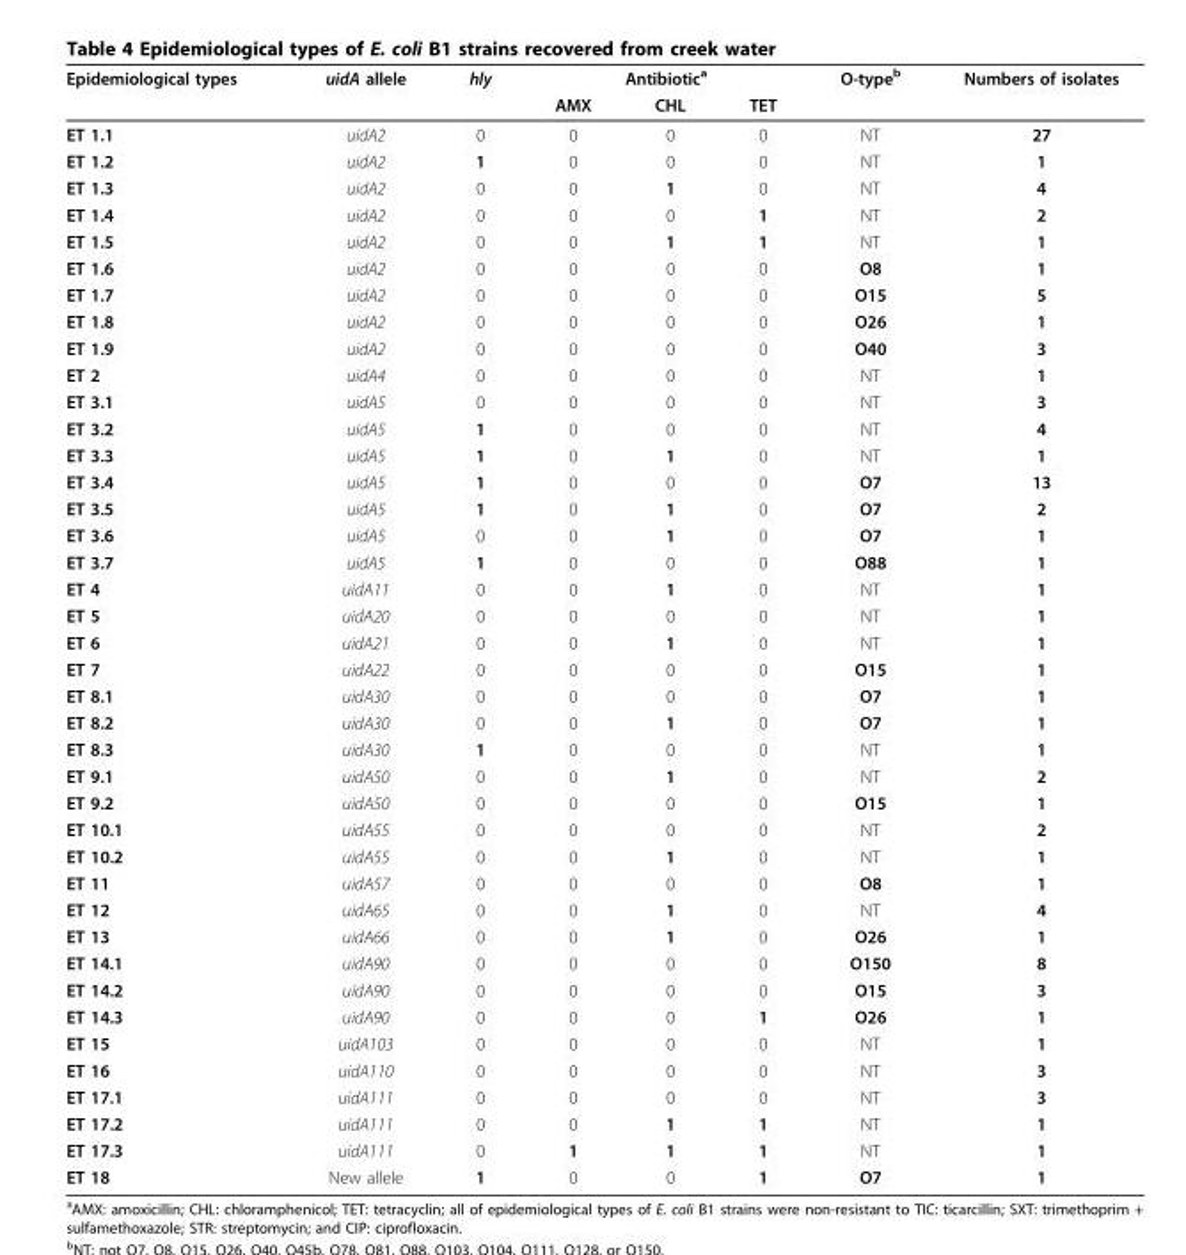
<table><thead><tr><td rowspan="2">Epidemiological types</td><td rowspan="2">uidA allele</td><td rowspan="2">hly</td><td colspan="3">Antibiotic<sup>a</sup></td><td rowspan="2">O-type<sup>b</sup></td><td rowspan="2">Numbers of isolates</td></tr><tr><td>AMX</td><td>CHL</td><td>TET</td></tr></thead><tbody><tr><td>ET 1.1</td><td>uidA2</td><td>0</td><td>0</td><td>0</td><td>0</td><td>NT</td><td>27</td></tr><tr><td>ET 1.2</td><td>uidA2</td><td>1</td><td>0</td><td>0</td><td>0</td><td>NT</td><td>1</td></tr><tr><td>ET 1.3</td><td>uidA2</td><td>0</td><td>0</td><td>1</td><td>0</td><td>NT</td><td>4</td></tr><tr><td>ET 1.4</td><td>uidA2</td><td>0</td><td>0</td><td>0</td><td>1</td><td>NT</td><td>2</td></tr><tr><td>ET 1.5</td><td>uidA2</td><td>0</td><td>0</td><td>1</td><td>1</td><td>NT</td><td>1</td></tr><tr><td>ET 1.6</td><td>uidA2</td><td>0</td><td>0</td><td>0</td><td>0</td><td>O8</td><td>1</td></tr><tr><td>ET 1.7</td><td>uidA2</td><td>0</td><td>0</td><td>0</td><td>0</td><td>O15</td><td>5</td></tr><tr><td>ET 1.8</td><td>uidA2</td><td>0</td><td>0</td><td>0</td><td>0</td><td>O26</td><td>1</td></tr><tr><td>ET 1.9</td><td>uidA2</td><td>0</td><td>0</td><td>0</td><td>0</td><td>O40</td><td>3</td></tr><tr><td>ET 2</td><td>uidA4</td><td>0</td><td>0</td><td>0</td><td>0</td><td>NT</td><td>1</td></tr><tr><td>ET 3.1</td><td>uidA5</td><td>0</td><td>0</td><td>0</td><td>0</td><td>NT</td><td>3</td></tr><tr><td>ET 3.2</td><td>uidA5</td><td>1</td><td>0</td><td>0</td><td>0</td><td>NT</td><td>4</td></tr><tr><td>ET 3.3</td><td>uidA5</td><td>1</td><td>0</td><td>1</td><td>0</td><td>NT</td><td>1</td></tr><tr><td>ET 3.4</td><td>uidA5</td><td>1</td><td>0</td><td>0</td><td>0</td><td>O7</td><td>13</td></tr><tr><td>ET 3.5</td><td>uidA5</td><td>1</td><td>0</td><td>1</td><td>0</td><td>O7</td><td>2</td></tr><tr><td>ET 3.6</td><td>uidA5</td><td>0</td><td>0</td><td>1</td><td>0</td><td>O7</td><td>1</td></tr><tr><td>ET 3.7</td><td>uidA5</td><td>1</td><td>0</td><td>0</td><td>0</td><td>O88</td><td>1</td></tr><tr><td>ET 4</td><td>uidA11</td><td>0</td><td>0</td><td>1</td><td>0</td><td>NT</td><td>1</td></tr><tr><td>ET 5</td><td>uidA20</td><td>0</td><td>0</td><td>0</td><td>0</td><td>NT</td><td>1</td></tr><tr><td>ET 6</td><td>uidA21</td><td>0</td><td>0</td><td>1</td><td>0</td><td>NT</td><td>1</td></tr><tr><td>ET 7</td><td>uidA22</td><td>0</td><td>0</td><td>0</td><td>0</td><td>O15</td><td>1</td></tr><tr><td>ET 8.1</td><td>uidA30</td><td>0</td><td>0</td><td>0</td><td>0</td><td>O7</td><td>1</td></tr><tr><td>ET 8.2</td><td>uidA30</td><td>0</td><td>0</td><td>1</td><td>0</td><td>O7</td><td>1</td></tr><tr><td>ET 8.3</td><td>uidA30</td><td>1</td><td>0</td><td>0</td><td>0</td><td>NT</td><td>1</td></tr><tr><td>ET 9.1</td><td>uidA50</td><td>0</td><td>0</td><td>1</td><td>0</td><td>NT</td><td>2</td></tr><tr><td>ET 9.2</td><td>uidA50</td><td>0</td><td>0</td><td>0</td><td>0</td><td>O15</td><td>1</td></tr><tr><td>ET 10.1</td><td>uidA55</td><td>0</td><td>0</td><td>0</td><td>0</td><td>NT</td><td>2</td></tr><tr><td>ET 10.2</td><td>uidA55</td><td>0</td><td>0</td><td>1</td><td>0</td><td>NT</td><td>1</td></tr><tr><td>ET 11</td><td>uidA57</td><td>0</td><td>0</td><td>0</td><td>0</td><td>O8</td><td>1</td></tr><tr><td>ET 12</td><td>uidA65</td><td>0</td><td>0</td><td>1</td><td>0</td><td>NT</td><td>4</td></tr><tr><td>ET 13</td><td>uidA66</td><td>0</td><td>0</td><td>1</td><td>0</td><td>O26</td><td>1</td></tr><tr><td>ET 14.1</td><td>uidA90</td><td>0</td><td>0</td><td>0</td><td>0</td><td>O150</td><td>8</td></tr><tr><td>ET 14.2</td><td>uidA90</td><td>0</td><td>0</td><td>0</td><td>0</td><td>O15</td><td>3</td></tr><tr><td>ET 14.3</td><td>uidA90</td><td>0</td><td>0</td><td>0</td><td>1</td><td>O26</td><td>1</td></tr><tr><td>ET 15</td><td>uidA103</td><td>0</td><td>0</td><td>0</td><td>0</td><td>NT</td><td>1</td></tr><tr><td>ET 16</td><td>uidA110</td><td>0</td><td>0</td><td>0</td><td>0</td><td>NT</td><td>3</td></tr><tr><td>ET 17.1</td><td>uidA111</td><td>0</td><td>0</td><td>0</td><td>0</td><td>NT</td><td>3</td></tr><tr><td>ET 17.2</td><td>uidA111</td><td>0</td><td>0</td><td>1</td><td>1</td><td>NT</td><td>1</td></tr><tr><td>ET 17.3</td><td>uidA111</td><td>0</td><td>1</td><td>1</td><td>1</td><td>NT</td><td>1</td></tr><tr><td>ET 18</td><td>New allele</td><td>1</td><td>0</td><td>0</td><td>1</td><td>O7</td><td>1</td></tr></tbody></table>